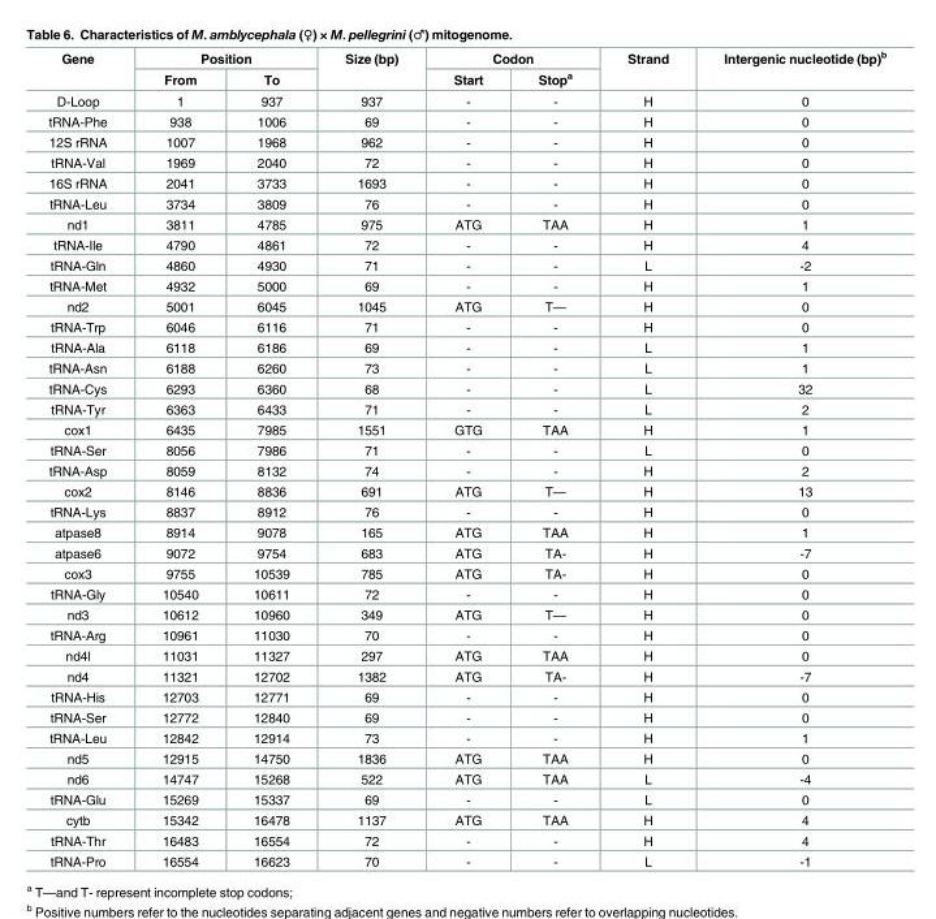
<table><thead><tr><td rowspan="2">Gene</td><td colspan="2">Position</td><td rowspan="2">Size (bp)</td><td colspan="2">Codon</td><td rowspan="2">Strand</td><td rowspan="2">Intergenic nucleotide (bp)<sup>b</sup></td></tr><tr><td>From</td><td>To</td><td>Start</td><td>Stop<sup>a</sup></td></tr></thead><tbody><tr><td>D-Loop</td><td>1</td><td>937</td><td>937</td><td>-</td><td>-</td><td>H</td><td>0</td></tr><tr><td>tRNA-Phe</td><td>938</td><td>1006</td><td>69</td><td>-</td><td>-</td><td>H</td><td>0</td></tr><tr><td>12S rRNA</td><td>1007</td><td>1968</td><td>962</td><td>-</td><td>-</td><td>H</td><td>0</td></tr><tr><td>tRNA-Val</td><td>1969</td><td>2040</td><td>72</td><td>-</td><td>-</td><td>H</td><td>0</td></tr><tr><td>16S rRNA</td><td>2041</td><td>3733</td><td>1693</td><td>-</td><td>-</td><td>H</td><td>0</td></tr><tr><td>tRNA-Leu</td><td>3734</td><td>3809</td><td>76</td><td>-</td><td>-</td><td>H</td><td>0</td></tr><tr><td>nd1</td><td>3811</td><td>4785</td><td>975</td><td>ATG</td><td>TAA</td><td>H</td><td>1</td></tr><tr><td>tRNA-Ile</td><td>4790</td><td>4861</td><td>72</td><td>-</td><td>-</td><td>H</td><td>4</td></tr><tr><td>tRNA-Gln</td><td>4860</td><td>4930</td><td>71</td><td>-</td><td>-</td><td>L</td><td>-2</td></tr><tr><td>tRNA-Met</td><td>4932</td><td>5000</td><td>69</td><td>-</td><td>-</td><td>H</td><td>1</td></tr><tr><td>nd2</td><td>5001</td><td>6045</td><td>1045</td><td>ATG</td><td>T—</td><td>H</td><td>0</td></tr><tr><td>tRNA-Trp</td><td>6046</td><td>6116</td><td>71</td><td>-</td><td>-</td><td>H</td><td>0</td></tr><tr><td>tRNA-Ala</td><td>6118</td><td>6186</td><td>69</td><td>-</td><td>-</td><td>L</td><td>1</td></tr><tr><td>tRNA-Asn</td><td>6188</td><td>6260</td><td>73</td><td>-</td><td>-</td><td>L</td><td>1</td></tr><tr><td>tRNA-Cys</td><td>6293</td><td>6360</td><td>68</td><td>-</td><td>-</td><td>L</td><td>32</td></tr><tr><td>tRNA-Tyr</td><td>6363</td><td>6433</td><td>71</td><td>-</td><td>-</td><td>L</td><td>2</td></tr><tr><td>cox1</td><td>6435</td><td>7985</td><td>1551</td><td>GTG</td><td>TAA</td><td>H</td><td>1</td></tr><tr><td>tRNA-Ser</td><td>8056</td><td>7986</td><td>71</td><td>-</td><td>-</td><td>L</td><td>0</td></tr><tr><td>tRNA-Asp</td><td>8059</td><td>8132</td><td>74</td><td>-</td><td>-</td><td>H</td><td>2</td></tr><tr><td>cox2</td><td>8146</td><td>8836</td><td>691</td><td>ATG</td><td>T—</td><td>H</td><td>13</td></tr><tr><td>tRNA-Lys</td><td>8837</td><td>8912</td><td>76</td><td>-</td><td>-</td><td>H</td><td>0</td></tr><tr><td>atpase8</td><td>8914</td><td>9078</td><td>165</td><td>ATG</td><td>TAA</td><td>H</td><td>1</td></tr><tr><td>atpase6</td><td>9072</td><td>9754</td><td>683</td><td>ATG</td><td>TA-</td><td>H</td><td>-7</td></tr><tr><td>cox3</td><td>9755</td><td>10539</td><td>785</td><td>ATG</td><td>TA-</td><td>H</td><td>0</td></tr><tr><td>tRNA-Gly</td><td>10540</td><td>10611</td><td>72</td><td>-</td><td>-</td><td>H</td><td>0</td></tr><tr><td>nd3</td><td>10612</td><td>10960</td><td>349</td><td>ATG</td><td>T—</td><td>H</td><td>0</td></tr><tr><td>tRNA-Arg</td><td>10961</td><td>11030</td><td>70</td><td>-</td><td>-</td><td>H</td><td>0</td></tr><tr><td>nd4l</td><td>11031</td><td>11327</td><td>297</td><td>ATG</td><td>TAA</td><td>H</td><td>0</td></tr><tr><td>nd4</td><td>11321</td><td>12702</td><td>1382</td><td>ATG</td><td>TA-</td><td>H</td><td>-7</td></tr><tr><td>tRNA-His</td><td>12703</td><td>12771</td><td>69</td><td>-</td><td>-</td><td>H</td><td>0</td></tr><tr><td>tRNA-Ser</td><td>12772</td><td>12840</td><td>69</td><td>-</td><td>-</td><td>H</td><td>0</td></tr><tr><td>tRNA-Leu</td><td>12842</td><td>12914</td><td>73</td><td>-</td><td>-</td><td>H</td><td>1</td></tr><tr><td>nd5</td><td>12915</td><td>14750</td><td>1836</td><td>ATG</td><td>TAA</td><td>H</td><td>0</td></tr><tr><td>nd6</td><td>14747</td><td>15268</td><td>522</td><td>ATG</td><td>TAA</td><td>L</td><td>-4</td></tr><tr><td>tRNA-Glu</td><td>15269</td><td>15337</td><td>69</td><td>-</td><td>-</td><td>L</td><td>0</td></tr><tr><td>cytb</td><td>15342</td><td>16478</td><td>1137</td><td>ATG</td><td>TAA</td><td>H</td><td>4</td></tr><tr><td>tRNA-Thr</td><td>16483</td><td>16554</td><td>72</td><td>-</td><td>-</td><td>H</td><td>4</td></tr><tr><td>tRNA-Pro</td><td>16554</td><td>16623</td><td>70</td><td>-</td><td>-</td><td>L</td><td>-1</td></tr></tbody></table>